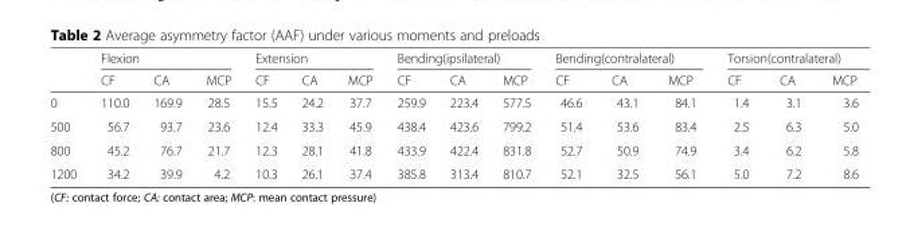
<table><thead><tr><td rowspan="2"></td><td colspan="3">Flexion</td><td colspan="3">Extension</td><td colspan="3">Bending(ipsilateral)</td><td colspan="3">Bending(contralateral)</td><td colspan="3">Torsion(contralateral)</td></tr><tr><td>CF</td><td>CA</td><td>MCP</td><td>CF</td><td>CA</td><td>MCP</td><td>CF</td><td>CA</td><td>MCP</td><td>CF</td><td>CA</td><td>MCP</td><td>CF</td><td>CA</td><td>MCP</td></tr></thead><tbody><tr><td>0</td><td>110.0</td><td>169.9</td><td>28.5</td><td>15.5</td><td>24.2</td><td>37.7</td><td>259.9</td><td>223.4</td><td>577.5</td><td>46.6</td><td>43.1</td><td>84.1</td><td>1.4</td><td>3.1</td><td>3.6</td></tr><tr><td>500</td><td>56.7</td><td>93.7</td><td>23.6</td><td>12.4</td><td>33.3</td><td>45.9</td><td>438.4</td><td>423.6</td><td>799.2</td><td>51.4</td><td>53.6</td><td>83.4</td><td>2.5</td><td>6.3</td><td>5.0</td></tr><tr><td>800</td><td>45.2</td><td>76.7</td><td>21.7</td><td>12.3</td><td>28.1</td><td>41.8</td><td>433.9</td><td>422.4</td><td>831.8</td><td>52.7</td><td>50.9</td><td>74.9</td><td>3.4</td><td>6.2</td><td>5.8</td></tr><tr><td>1200</td><td>34.2</td><td>39.9</td><td>4.2</td><td>10.3</td><td>26.1</td><td>37.4</td><td>385.8</td><td>313.4</td><td>810.7</td><td>52.1</td><td>32.5</td><td>56.1</td><td>5.0</td><td>7.2</td><td>8.6</td></tr></tbody></table>